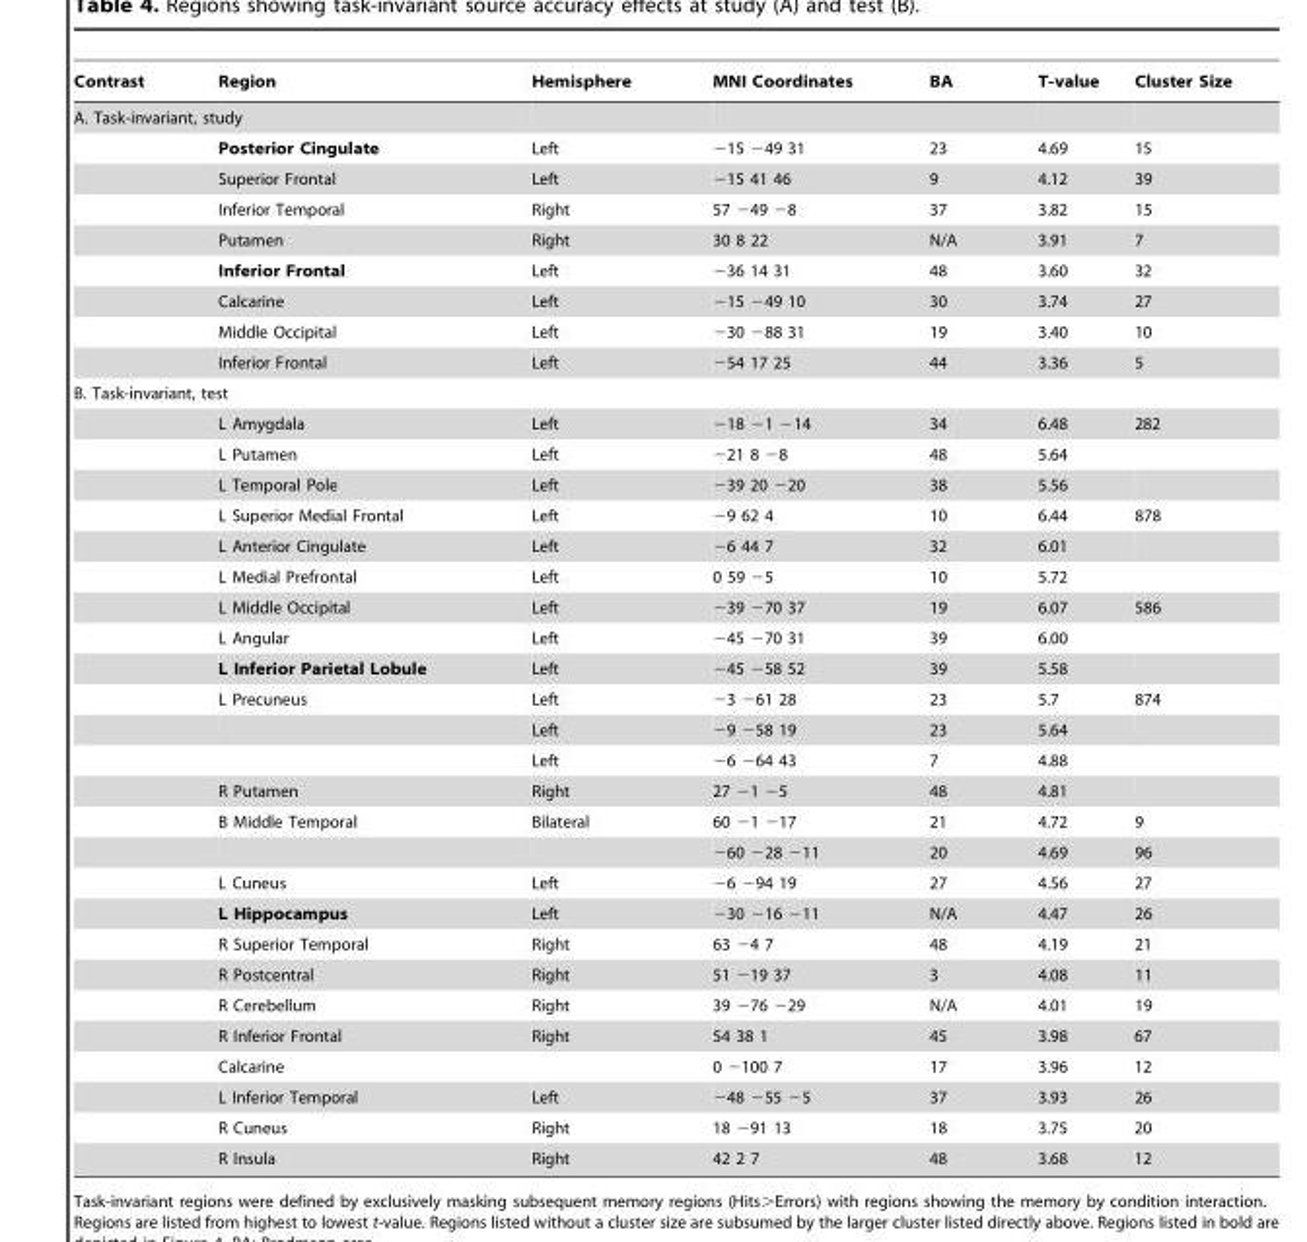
<table><thead><tr><td>Contrast</td><td>Region</td><td>Hemisphere</td><td>MNI Coordinates</td><td>BA</td><td>T-value</td><td>Cluster Size</td></tr></thead><tbody><tr><td colspan="7">A. Task-invariant, study</td></tr><tr><td></td><td>Posterior Cingulate</td><td>Left</td><td>−15 −49 31</td><td>23</td><td>4.69</td><td>15</td></tr><tr><td></td><td>Superior Frontal</td><td>Left</td><td>−15 41 46</td><td>9</td><td>4.12</td><td>39</td></tr><tr><td></td><td>Inferior Temporal</td><td>Right</td><td>57 −49 −8</td><td>37</td><td>3.82</td><td>15</td></tr><tr><td></td><td>Putamen</td><td>Right</td><td>30 8 22</td><td>N/A</td><td>3.91</td><td>7</td></tr><tr><td></td><td>Inferior Frontal</td><td>Left</td><td>−36 14 31</td><td>48</td><td>3.60</td><td>32</td></tr><tr><td></td><td>Calcarine</td><td>Left</td><td>−15 −49 10</td><td>30</td><td>3.74</td><td>27</td></tr><tr><td></td><td>Middle Occipital</td><td>Left</td><td>−30 −88 31</td><td>19</td><td>3.40</td><td>10</td></tr><tr><td></td><td>Inferior Frontal</td><td>Left</td><td>−54 17 25</td><td>44</td><td>3.36</td><td>5</td></tr><tr><td colspan="7">B. Task-invariant, test</td></tr><tr><td></td><td>L Amygdala</td><td>Left</td><td>−18 −1 −14</td><td>34</td><td>6.48</td><td>282</td></tr><tr><td></td><td>L Putamen</td><td>Left</td><td>−21 8 −8</td><td>48</td><td>5.64</td><td></td></tr><tr><td></td><td>L Temporal Pole</td><td>Left</td><td>−39 20 −20</td><td>38</td><td>5.56</td><td></td></tr><tr><td></td><td>L Superior Medial Frontal</td><td>Left</td><td>−9 62 4</td><td>10</td><td>6.44</td><td>878</td></tr><tr><td></td><td>L Anterior Cingulate</td><td>Left</td><td>−6 44 7</td><td>32</td><td>6.01</td><td></td></tr><tr><td></td><td>L Medial Prefrontal</td><td>Left</td><td>0 59 −5</td><td>10</td><td>5.72</td><td></td></tr><tr><td></td><td>L Middle Occipital</td><td>Left</td><td>−39 −70 37</td><td>19</td><td>6.07</td><td>586</td></tr><tr><td></td><td>L Angular</td><td>Left</td><td>−45 −70 31</td><td>39</td><td>6.00</td><td></td></tr><tr><td></td><td>L Inferior Parietal Lobule</td><td>Left</td><td>−45 −58 52</td><td>39</td><td>5.58</td><td></td></tr><tr><td></td><td>L Precuneus</td><td>Left</td><td>−3 −61 28</td><td>23</td><td>5.7</td><td>874</td></tr><tr><td></td><td></td><td>Left</td><td>−9 −58 19</td><td>23</td><td>5.64</td><td></td></tr><tr><td></td><td></td><td>Left</td><td>−6 −64 43</td><td>7</td><td>4.88</td><td></td></tr><tr><td></td><td>R Putamen</td><td>Right</td><td>27 −1 −5</td><td>48</td><td>4.81</td><td></td></tr><tr><td></td><td>B Middle Temporal</td><td>Bilateral</td><td>60 −1 −17</td><td>21</td><td>4.72</td><td>9</td></tr><tr><td></td><td></td><td></td><td>−60 −28 −11</td><td>20</td><td>4.69</td><td>96</td></tr><tr><td></td><td>L Cuneus</td><td>Left</td><td>−6 −94 19</td><td>27</td><td>4.56</td><td>27</td></tr><tr><td></td><td>L Hippocampus</td><td>Left</td><td>−30 −16 −11</td><td>N/A</td><td>4.47</td><td>26</td></tr><tr><td></td><td>R Superior Temporal</td><td>Right</td><td>63 −4 7</td><td>48</td><td>4.19</td><td>21</td></tr><tr><td></td><td>R Postcentral</td><td>Right</td><td>51 −19 37</td><td>3</td><td>4.08</td><td>11</td></tr><tr><td></td><td>R Cerebellum</td><td>Right</td><td>39 −76 −29</td><td>N/A</td><td>4.01</td><td>19</td></tr><tr><td></td><td>R Inferior Frontal</td><td>Right</td><td>54 38 1</td><td>45</td><td>3.98</td><td>67</td></tr><tr><td></td><td>Calcarine</td><td></td><td>0 −100 7</td><td>17</td><td>3.96</td><td>12</td></tr><tr><td></td><td>L Inferior Temporal</td><td>Left</td><td>−48 −55 −5</td><td>37</td><td>3.93</td><td>26</td></tr><tr><td></td><td>R Cuneus</td><td>Right</td><td>18 −91 13</td><td>18</td><td>3.75</td><td>20</td></tr><tr><td></td><td>R Insula</td><td>Right</td><td>42 2 7</td><td>48</td><td>3.68</td><td>12</td></tr></tbody></table>